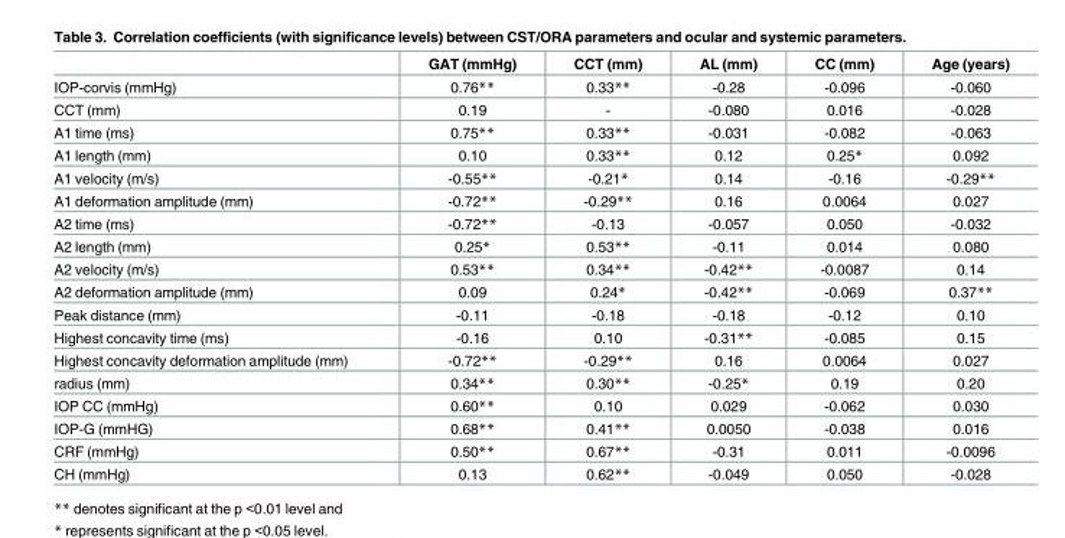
<table><thead><tr><td></td><td>GAT (mmHg)</td><td>CCT (mm)</td><td>AL (mm)</td><td>CC (mm)</td><td>Age (years)</td></tr></thead><tbody><tr><td>IOP-corvis (mmHg)</td><td>0.76**</td><td>0.33**</td><td>-0.28</td><td>-0.096</td><td>-0.060</td></tr><tr><td>CCT (mm)</td><td>0.19</td><td>-</td><td>-0.080</td><td>0.016</td><td>-0.028</td></tr><tr><td>A1 time (ms)</td><td>0.75**</td><td>0.33**</td><td>-0.031</td><td>-0.082</td><td>-0.063</td></tr><tr><td>A1 length (mm)</td><td>0.10</td><td>0.33**</td><td>0.12</td><td>0.25*</td><td>0.092</td></tr><tr><td>A1 velocity (m/s)</td><td>-0.55**</td><td>-0.21*</td><td>0.14</td><td>-0.16</td><td>-0.29**</td></tr><tr><td>A1 deformation amplitude (mm)</td><td>-0.72**</td><td>-0.29**</td><td>0.16</td><td>0.0064</td><td>0.027</td></tr><tr><td>A2 time (ms)</td><td>-0.72**</td><td>-0.13</td><td>-0.057</td><td>0.050</td><td>-0.032</td></tr><tr><td>A2 length (mm)</td><td>0.25*</td><td>0.53**</td><td>-0.11</td><td>0.014</td><td>0.080</td></tr><tr><td>A2 velocity (m/s)</td><td>0.53**</td><td>0.34**</td><td>-0.42**</td><td>-0.0087</td><td>0.14</td></tr><tr><td>A2 deformation amplitude (mm)</td><td>0.09</td><td>0.24*</td><td>-0.42**</td><td>-0.069</td><td>0.37**</td></tr><tr><td>Peak distance (mm)</td><td>-0.11</td><td>-0.18</td><td>-0.18</td><td>-0.12</td><td>0.10</td></tr><tr><td>Highest concavity time (ms)</td><td>-0.16</td><td>0.10</td><td>-0.31**</td><td>-0.085</td><td>0.15</td></tr><tr><td>Highest concavity deformation amplitude (mm)</td><td>-0.72**</td><td>-0.29**</td><td>0.16</td><td>0.0064</td><td>0.027</td></tr><tr><td>radius (mm)</td><td>0.34**</td><td>0.30**</td><td>-0.25*</td><td>0.19</td><td>0.20</td></tr><tr><td>IOP CC (mmHg)</td><td>0.60**</td><td>0.10</td><td>0.029</td><td>-0.062</td><td>0.030</td></tr><tr><td>IOP-G (mmHG)</td><td>0.68**</td><td>0.41**</td><td>0.0050</td><td>-0.038</td><td>0.016</td></tr><tr><td>CRF (mmHg)</td><td>0.50**</td><td>0.67**</td><td>-0.31</td><td>0.011</td><td>-0.0096</td></tr><tr><td>CH (mmHg)</td><td>0.13</td><td>0.62**</td><td>-0.049</td><td>0.050</td><td>-0.028</td></tr></tbody></table>